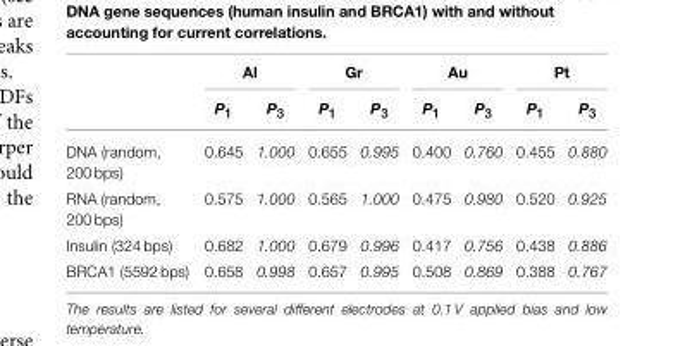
<table><thead><tr><td rowspan="2"></td><td colspan="2">Al</td><td colspan="2">Gr</td><td colspan="2">Au</td><td colspan="2">Pt</td></tr><tr><td>P<sub>1</sub></td><td>P<sub>3</sub></td><td>P<sub>1</sub></td><td>P<sub>3</sub></td><td>P<sub>1</sub></td><td>P<sub>3</sub></td><td>P<sub>1</sub></td><td>P<sub>3</sub></td></tr></thead><tbody><tr><td>DNA (random, 200 bps)</td><td>0.645</td><td>1.000</td><td>0.655</td><td>0.995</td><td>0.400</td><td>0.760</td><td>0.455</td><td>0.880</td></tr><tr><td>RNA (random, 200 bps)</td><td>0.575</td><td>1.000</td><td>0.565</td><td>1.000</td><td>0.475</td><td>0.980</td><td>0.520</td><td>0.925</td></tr><tr><td>Insulin (324 bps)</td><td>0.682</td><td>1.000</td><td>0.679</td><td>0.996</td><td>0.417</td><td>0.756</td><td>0.438</td><td>0.886</td></tr><tr><td>BRCA1 (5592 bps)</td><td>0.658</td><td>0.998</td><td>0.657</td><td>0.995</td><td>0.508</td><td>0.869</td><td>0.388</td><td>0.767</td></tr></tbody></table>